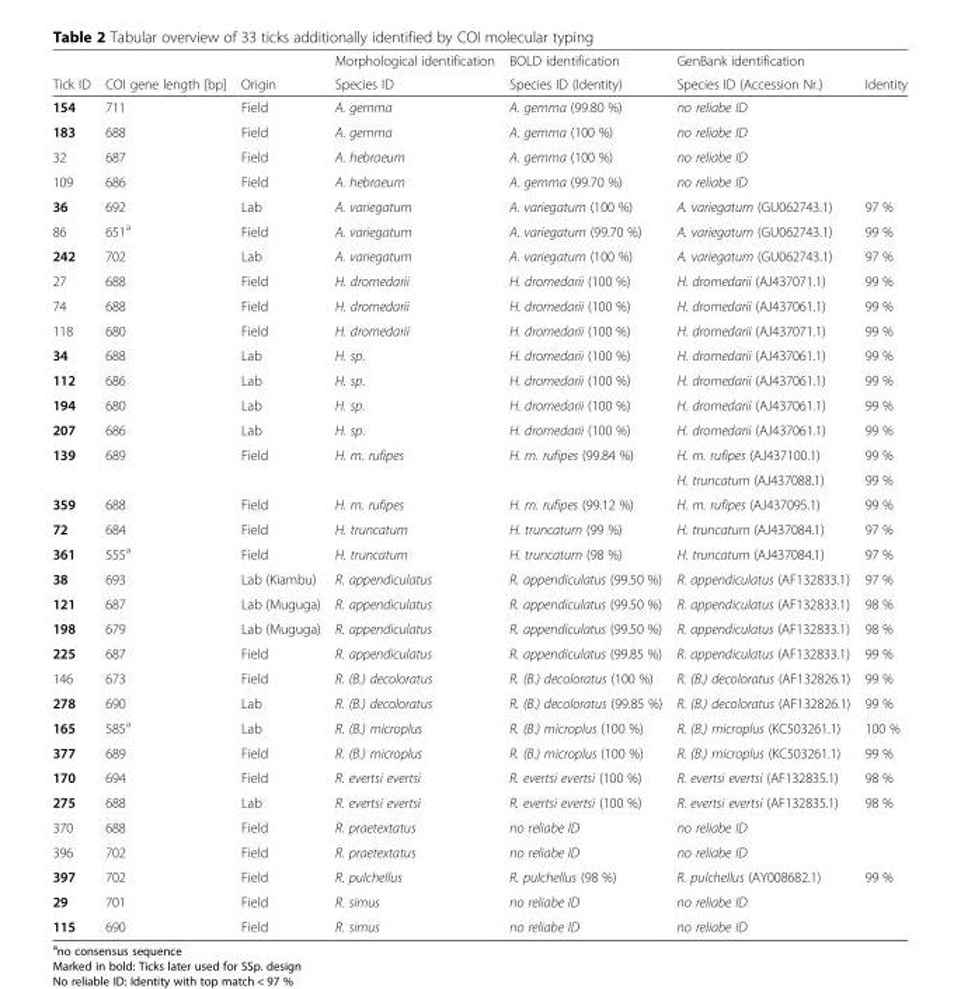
<table><thead><tr><td rowspan="2">Tick ID</td><td rowspan="2">COI gene length [bp]</td><td rowspan="2">Origin</td><td rowspan="2">Morphological identification Species ID</td><td rowspan="2">BOLD identification Species ID (Identity)</td><td rowspan="2">GenBank identification Species ID (Accession Nr.)</td><td rowspan="2">Identity</td></tr><tr></tr></thead><tbody><tr><td>154</td><td>711</td><td>Field</td><td>A. gemma</td><td>A. gemma (99.80 %)</td><td>no reliabe ID</td><td></td></tr><tr><td>183</td><td>688</td><td>Field</td><td>A. gemma</td><td>A. gemma (100 %)</td><td>no reliabe ID</td><td></td></tr><tr><td>32</td><td>687</td><td>Field</td><td>A. hebraeum</td><td>A. gemma (100 %)</td><td>no reliabe ID</td><td></td></tr><tr><td>109</td><td>686</td><td>Field</td><td>A. hebraeum</td><td>A. gemma (99.70 %)</td><td>no reliabe ID</td><td></td></tr><tr><td>36</td><td>692</td><td>Lab</td><td>A. variegatum</td><td>A. variegatum (100 %)</td><td>A. variegatum (GU062743.1)</td><td>97 %</td></tr><tr><td>86</td><td>651<sup>a</sup></td><td>Field</td><td>A. variegatum</td><td>A. variegatum (99.70 %)</td><td>A. variegatum (GU062743.1)</td><td>99 %</td></tr><tr><td>242</td><td>702</td><td>Lab</td><td>A. variegatum</td><td>A. variegatum (100 %)</td><td>A. variegatum (GU062743.1)</td><td>97 %</td></tr><tr><td>27</td><td>688</td><td>Field</td><td>H. dromedarii</td><td>H. dromedarii (100 %)</td><td>H. dromedarii (AJ437071.1)</td><td>99 %</td></tr><tr><td>74</td><td>688</td><td>Field</td><td>H. dromedarii</td><td>H. dromedarii (100 %)</td><td>H. dromedarii (AJ437061.1)</td><td>99 %</td></tr><tr><td>118</td><td>680</td><td>Field</td><td>H. dromedarii</td><td>H. dromedarii (100 %)</td><td>H. dromedarii (AJ437071.1)</td><td>99 %</td></tr><tr><td>34</td><td>688</td><td>Lab</td><td>H. sp.</td><td>H. dromedarii (100 %)</td><td>H. dromedarii (AJ437061.1)</td><td>99 %</td></tr><tr><td>112</td><td>686</td><td>Lab</td><td>H. sp.</td><td>H. dromedarii (100 %)</td><td>H. dromedarii (AJ437061.1)</td><td>99 %</td></tr><tr><td>194</td><td>680</td><td>Lab</td><td>H. sp.</td><td>H. dromedarii (100 %)</td><td>H. dromedarii (AJ437061.1)</td><td>99 %</td></tr><tr><td>207</td><td>686</td><td>Lab</td><td>H. sp.</td><td>H. dromedarii (100 %)</td><td>H. dromedarii (AJ437061.1)</td><td>99 %</td></tr><tr><td rowspan="2">139</td><td>689</td><td>Field</td><td>H. m. rufipes</td><td>H. m. rufipes (99.84 %)</td><td>H. m. rufipes (AJ437100.1)</td><td>99 %</td></tr><tr><td></td><td></td><td></td><td></td><td>H. truncatum (AJ437088.1)</td><td>99 %</td></tr><tr><td>359</td><td>688</td><td>Field</td><td>H. m. rufipes</td><td>H. m. rufipes (99.12 %)</td><td>H. m. rufipes (AJ437095.1)</td><td>99 %</td></tr><tr><td>72</td><td>684</td><td>Field</td><td>H. truncatum</td><td>H. truncatum (99 %)</td><td>H. truncatum (AJ437084.1)</td><td>97 %</td></tr><tr><td>361</td><td>555<sup>a</sup></td><td>Field</td><td>H. truncatum</td><td>H. truncatum (98 %)</td><td>H. truncatum (AJ437084.1)</td><td>97 %</td></tr><tr><td>38</td><td>693</td><td>Lab (Kiambu)</td><td>R. appendiculatus</td><td>R. appendiculatus (99.50 %)</td><td>R. appendiculatus (AF132833.1)</td><td>97 %</td></tr><tr><td>121</td><td>687</td><td>Lab (Muguga)</td><td>R. appendiculatus</td><td>R. appendiculatus (99.50 %)</td><td>R. appendiculatus (AF132833.1)</td><td>98 %</td></tr><tr><td>198</td><td>679</td><td>Lab (Muguga)</td><td>R. appendiculatus</td><td>R. appendiculatus (99.50 %)</td><td>R. appendiculatus (AF132833.1)</td><td>98 %</td></tr><tr><td>225</td><td>687</td><td>Field</td><td>R. appendiculatus</td><td>R. appendiculatus (99.85 %)</td><td>R. appendiculatus (AF132833.1)</td><td>99 %</td></tr><tr><td>146</td><td>673</td><td>Field</td><td>R. (B.) decoloratus</td><td>R. (B.) decoloratus (100 %)</td><td>R. (B.) decoloratus (AF132826.1)</td><td>99 %</td></tr><tr><td>278</td><td>690</td><td>Lab</td><td>R. (B.) decoloratus</td><td>R. (B.) decoloratus (99.85 %)</td><td>R. (B.) decoloratus (AF132826.1)</td><td>99 %</td></tr><tr><td>165</td><td>585<sup>a</sup></td><td>Lab</td><td>R. (B.) microplus</td><td>R. (B.) microplus (100 %)</td><td>R. (B.) microplus (KC503261.1)</td><td>100 %</td></tr><tr><td>377</td><td>689</td><td>Field</td><td>R. (B.) microplus</td><td>R. (B.) microplus (100 %)</td><td>R. (B.) microplus (KC503261.1)</td><td>99 %</td></tr><tr><td>170</td><td>694</td><td>Field</td><td>R. evertsi evertsi</td><td>R. evertsi evertsi (100 %)</td><td>R. evertsi evertsi (AF132835.1)</td><td>98 %</td></tr><tr><td>275</td><td>688</td><td>Lab</td><td>R. evertsi evertsi</td><td>R. evertsi evertsi (100 %)</td><td>R. evertsi evertsi (AF132835.1)</td><td>98 %</td></tr><tr><td>370</td><td>688</td><td>Field</td><td>R. praetextatus</td><td>no reliabe ID</td><td>no reliabe ID</td><td></td></tr><tr><td>396</td><td>702</td><td>Field</td><td>R. praetextatus</td><td>no reliabe ID</td><td>no reliabe ID</td><td></td></tr><tr><td>397</td><td>702</td><td>Field</td><td>R. pulchellus</td><td>R. pulchellus (98 %)</td><td>R. pulchellus (AY008682.1)</td><td>99 %</td></tr><tr><td>29</td><td>701</td><td>Field</td><td>R. simus</td><td>no reliabe ID</td><td>no reliabe ID</td><td></td></tr><tr><td>115</td><td>690</td><td>Field</td><td>R. simus</td><td>no reliabe ID</td><td>no reliabe ID</td><td></td></tr></tbody></table>